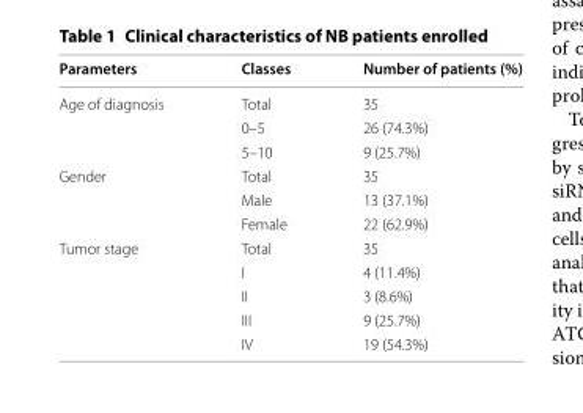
<table><thead><tr><td>Parameters</td><td>Classes</td><td>Number of patients (%)</td></tr></thead><tbody><tr><td rowspan="3">Age of diagnosis</td><td>Total</td><td>35</td></tr><tr><td>0–5</td><td>26 (74.3%)</td></tr><tr><td>5–10</td><td>9 (25.7%)</td></tr><tr><td rowspan="3">Gender</td><td>Total</td><td>35</td></tr><tr><td>Male</td><td>13 (37.1%)</td></tr><tr><td>Female</td><td>22 (62.9%)</td></tr><tr><td rowspan="5">Tumor stage</td><td>Total</td><td>35</td></tr><tr><td>I</td><td>4 (11.4%)</td></tr><tr><td>II</td><td>3 (8.6%)</td></tr><tr><td>III</td><td>9 (25.7%)</td></tr><tr><td>IV</td><td>19 (54.3%)</td></tr></tbody></table>